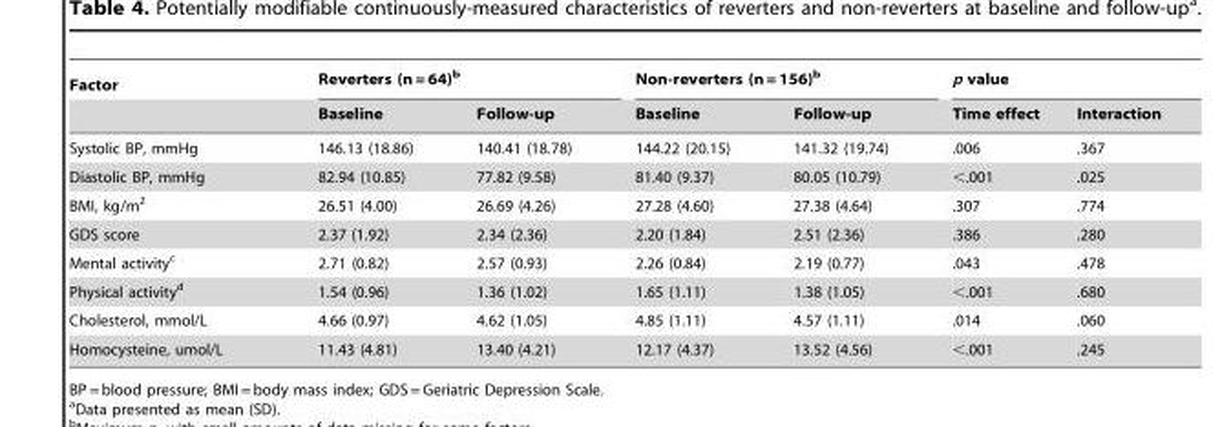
<table><thead><tr><td rowspan="2">Factor</td><td colspan="2">Reverters (n = 64)<sup>b</sup></td><td colspan="2">Non-reverters (n = 156)<sup>b</sup></td><td colspan="2">p value</td></tr><tr><td>Baseline</td><td>Follow-up</td><td>Baseline</td><td>Follow-up</td><td>Time effect</td><td>Interaction</td></tr></thead><tbody><tr><td>Systolic BP, mmHg</td><td>146.13 (18.86)</td><td>140.41 (18.78)</td><td>144.22 (20.15)</td><td>141.32 (19.74)</td><td>.006</td><td>.367</td></tr><tr><td>Diastolic BP, mmHg</td><td>82.94 (10.85)</td><td>77.82 (9.58)</td><td>81.40 (9.37)</td><td>80.05 (10.79)</td><td>&lt;.001</td><td>.025</td></tr><tr><td>BMI, kg/m<sup>2</sup></td><td>26.51 (4.00)</td><td>26.69 (4.26)</td><td>27.28 (4.60)</td><td>27.38 (4.64)</td><td>.307</td><td>.774</td></tr><tr><td>GDS score</td><td>2.37 (1.92)</td><td>2.34 (2.36)</td><td>2.20 (1.84)</td><td>2.51 (2.36)</td><td>.386</td><td>.280</td></tr><tr><td>Mental activity<sup>c</sup></td><td>2.71 (0.82)</td><td>2.57 (0.93)</td><td>2.26 (0.84)</td><td>2.19 (0.77)</td><td>.043</td><td>.478</td></tr><tr><td>Physical activity<sup>d</sup></td><td>1.54 (0.96)</td><td>1.36 (1.02)</td><td>1.65 (1.11)</td><td>1.38 (1.05)</td><td>&lt;.001</td><td>.680</td></tr><tr><td>Cholesterol, mmol/L</td><td>4.66 (0.97)</td><td>4.62 (1.05)</td><td>4.85 (1.11)</td><td>4.57 (1.11)</td><td>.014</td><td>.060</td></tr><tr><td>Homocysteine, umol/L</td><td>11.43 (4.81)</td><td>13.40 (4.21)</td><td>12.17 (4.37)</td><td>13.52 (4.56)</td><td>&lt;.001</td><td>.245</td></tr></tbody></table>